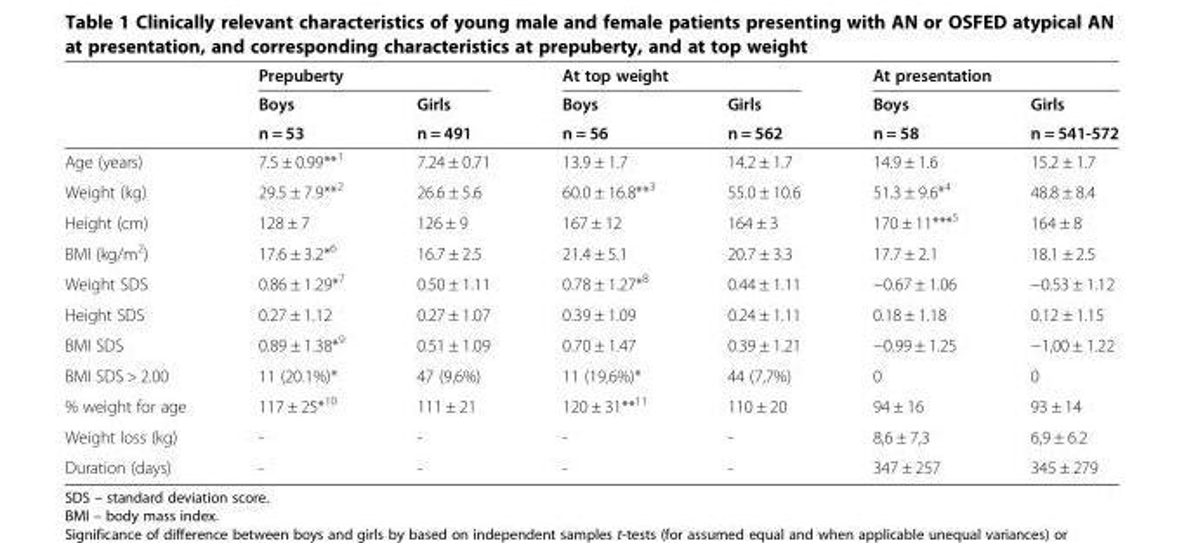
<table><thead><tr><td rowspan="3"></td><td colspan="2">Prepuberty</td><td colspan="2">At top weight</td><td colspan="2">At presentation</td></tr><tr><td rowspan="2">Boys n = 53</td><td rowspan="2">Girls n = 491</td><td rowspan="2">Boys n = 56</td><td rowspan="2">Girls n = 562</td><td rowspan="2">Boys n = 58</td><td rowspan="2">Girls n = 541-572</td></tr><tr></tr></thead><tbody><tr><td>Age (years)</td><td>7.5 ± 0.99**<sup>1</sup></td><td>7.24 ± 0.71</td><td>13.9 ± 1.7</td><td>14.2 ± 1.7</td><td>14.9 ± 1.6</td><td>15.2 ± 1.7</td></tr><tr><td>Weight (kg)</td><td>29.5 ± 7.9**<sup>2</sup></td><td>26.6 ± 5.6</td><td>60.0 ± 16.8**<sup>3</sup></td><td>55.0 ± 10.6</td><td>51.3 ± 9.6*<sup>4</sup></td><td>48.8 ± 8.4</td></tr><tr><td>Height (cm)</td><td>128 ± 7</td><td>126 ± 9</td><td>167 ± 12</td><td>164 ± 3</td><td>170 ± 11***<sup>5</sup></td><td>164 ± 8</td></tr><tr><td>BMI (kg/m<sup>2</sup>)</td><td>17.6 ± 3.2*<sup>6</sup></td><td>16.7 ± 2.5</td><td>21.4 ± 5.1</td><td>20.7 ± 3.3</td><td>17.7 ± 2.1</td><td>18.1 ± 2.5</td></tr><tr><td>Weight SDS</td><td>0.86 ± 1.29*<sup>7</sup></td><td>0.50 ± 1.11</td><td>0.78 ± 1.27*<sup>8</sup></td><td>0.44 ± 1.11</td><td>−0.67 ± 1.06</td><td>−0.53 ± 1.12</td></tr><tr><td>Height SDS</td><td>0.27 ± 1.12</td><td>0.27 ± 1.07</td><td>0.39 ± 1.09</td><td>0.24 ± 1.11</td><td>0.18 ± 1.18</td><td>0.12 ± 1.15</td></tr><tr><td>BMI SDS</td><td>0.89 ± 1.38*<sup>9</sup></td><td>0.51 ± 1.09</td><td>0.70 ± 1.47</td><td>0.39 ± 1.21</td><td>−0.99 ± 1.25</td><td>−1,00 ± 1.22</td></tr><tr><td>BMI SDS &gt; 2.00</td><td>11 (20.1%)*</td><td>47 (9,6%)</td><td>11 (19,6%)*</td><td>44 (7,7%)</td><td>0</td><td>0</td></tr><tr><td>% weight for age</td><td>117 ± 25*<sup>10</sup></td><td>111 ± 21</td><td>120 ± 31**<sup>11</sup></td><td>110 ± 20</td><td>94 ± 16</td><td>93 ± 14</td></tr><tr><td>Weight loss (kg)</td><td>-</td><td>-</td><td>-</td><td>-</td><td>8,6 ± 7,3</td><td>6,9 ± 6.2</td></tr><tr><td>Duration (days)</td><td>-</td><td>-</td><td>-</td><td>-</td><td>347 ± 257</td><td>345 ± 279</td></tr></tbody></table>